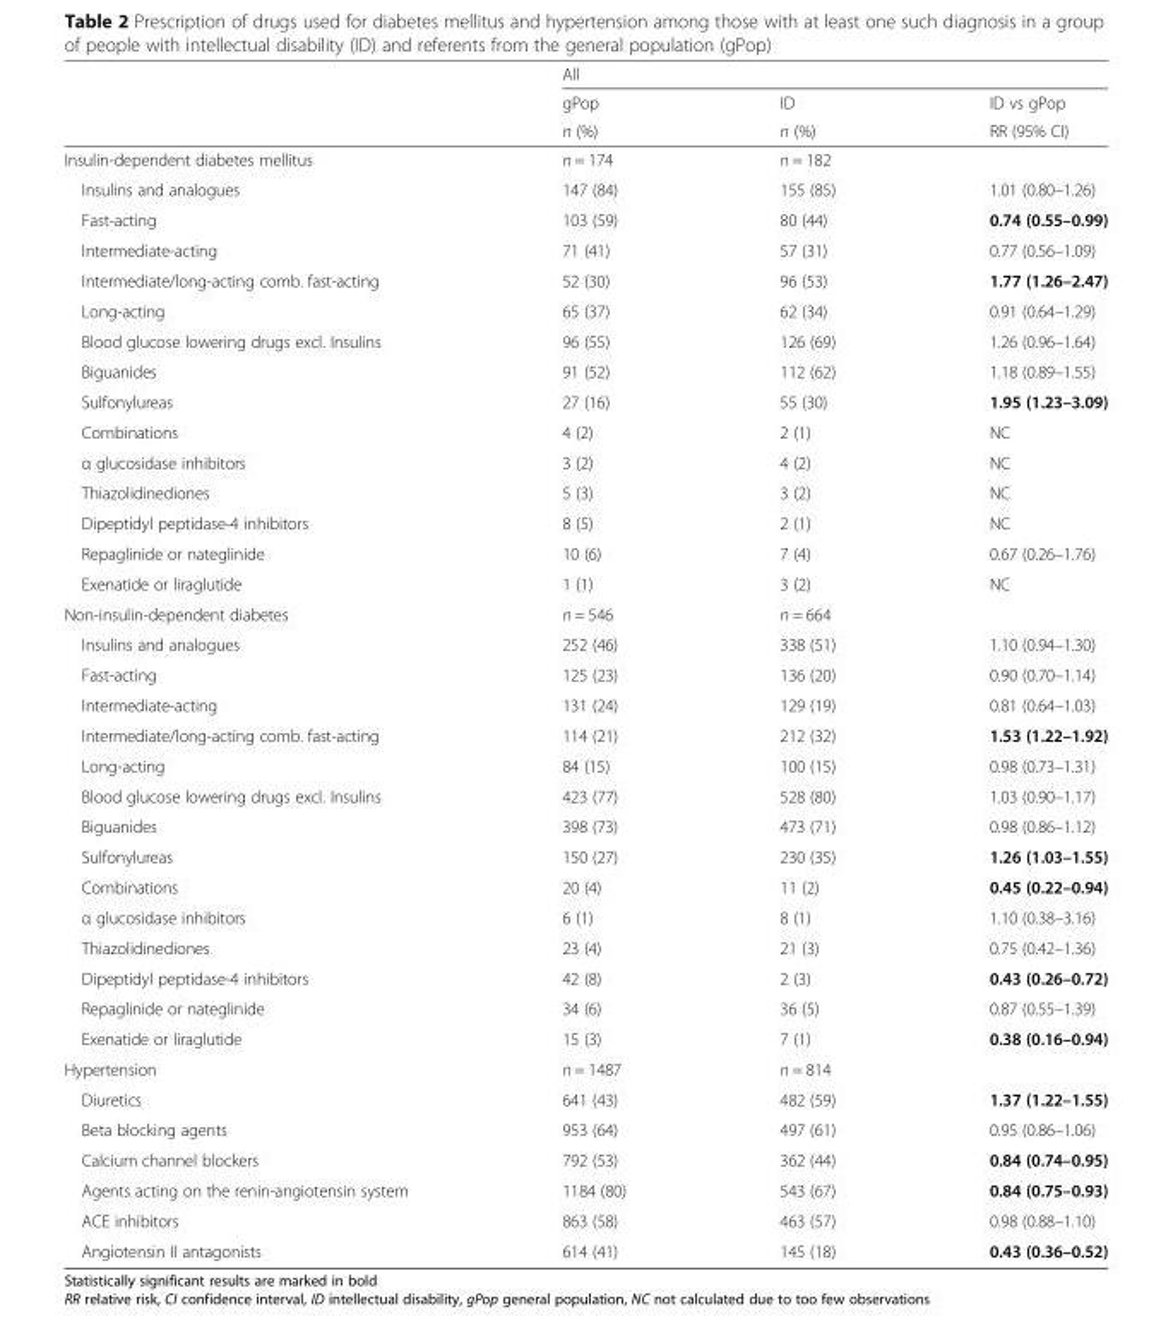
<table><thead><tr><td rowspan="3"></td><td colspan="3">All</td></tr><tr><td rowspan="2">gPop n (%)</td><td rowspan="2">ID n (%)</td><td rowspan="2">ID vs gPop RR (95% CI)</td></tr><tr></tr></thead><tbody><tr><td>Insulin-dependent diabetes mellitus</td><td>n = 174</td><td>n = 182</td><td></td></tr><tr><td>Insulins and analogues</td><td>147 (84)</td><td>155 (85)</td><td>1.01 (0.80–1.26)</td></tr><tr><td>Fast-acting</td><td>103 (59)</td><td>80 (44)</td><td>0.74 (0.55–0.99)</td></tr><tr><td>Intermediate-acting</td><td>71 (41)</td><td>57 (31)</td><td>0.77 (0.56–1.09)</td></tr><tr><td>Intermediate/long-acting comb. fast-acting</td><td>52 (30)</td><td>96 (53)</td><td>1.77 (1.26–2.47)</td></tr><tr><td>Long-acting</td><td>65 (37)</td><td>62 (34)</td><td>0.91 (0.64–1.29)</td></tr><tr><td>Blood glucose lowering drugs excl. Insulins</td><td>96 (55)</td><td>126 (69)</td><td>1.26 (0.96–1.64)</td></tr><tr><td>Biguanides</td><td>91 (52)</td><td>112 (62)</td><td>1.18 (0.89–1.55)</td></tr><tr><td>Sulfonylureas</td><td>27 (16)</td><td>55 (30)</td><td>1.95 (1.23–3.09)</td></tr><tr><td>Combinations</td><td>4 (2)</td><td>2 (1)</td><td>NC</td></tr><tr><td>α glucosidase inhibitors</td><td>3 (2)</td><td>4 (2)</td><td>NC</td></tr><tr><td>Thiazolidinediones</td><td>5 (3)</td><td>3 (2)</td><td>NC</td></tr><tr><td>Dipeptidyl peptidase-4 inhibitors</td><td>8 (5)</td><td>2 (1)</td><td>NC</td></tr><tr><td>Repaglinide or nateglinide</td><td>10 (6)</td><td>7 (4)</td><td>0.67 (0.26–1.76)</td></tr><tr><td>Exenatide or liraglutide</td><td>1 (1)</td><td>3 (2)</td><td>NC</td></tr><tr><td>Non-insulin-dependent diabetes</td><td>n = 546</td><td>n = 664</td><td></td></tr><tr><td>Insulins and analogues</td><td>252 (46)</td><td>338 (51)</td><td>1.10 (0.94–1.30)</td></tr><tr><td>Fast-acting</td><td>125 (23)</td><td>136 (20)</td><td>0.90 (0.70–1.14)</td></tr><tr><td>Intermediate-acting</td><td>131 (24)</td><td>129 (19)</td><td>0.81 (0.64–1.03)</td></tr><tr><td>Intermediate/long-acting comb. fast-acting</td><td>114 (21)</td><td>212 (32)</td><td>1.53 (1.22–1.92)</td></tr><tr><td>Long-acting</td><td>84 (15)</td><td>100 (15)</td><td>0.98 (0.73–1.31)</td></tr><tr><td>Blood glucose lowering drugs excl. Insulins</td><td>423 (77)</td><td>528 (80)</td><td>1.03 (0.90–1.17)</td></tr><tr><td>Biguanides</td><td>398 (73)</td><td>473 (71)</td><td>0.98 (0.86–1.12)</td></tr><tr><td>Sulfonylureas</td><td>150 (27)</td><td>230 (35)</td><td>1.26 (1.03–1.55)</td></tr><tr><td>Combinations</td><td>20 (4)</td><td>11 (2)</td><td>0.45 (0.22–0.94)</td></tr><tr><td>α glucosidase inhibitors</td><td>6 (1)</td><td>8 (1)</td><td>1.10 (0.38–3.16)</td></tr><tr><td>Thiazolidinediones</td><td>23 (4)</td><td>21 (3)</td><td>0.75 (0.42–1.36)</td></tr><tr><td>Dipeptidyl peptidase-4 inhibitors</td><td>42 (8)</td><td>2 (3)</td><td>0.43 (0.26–0.72)</td></tr><tr><td>Repaglinide or nateglinide</td><td>34 (6)</td><td>36 (5)</td><td>0.87 (0.55–1.39)</td></tr><tr><td>Exenatide or liraglutide</td><td>15 (3)</td><td>7 (1)</td><td>0.38 (0.16–0.94)</td></tr><tr><td>Hypertension</td><td>n = 1487</td><td>n = 814</td><td></td></tr><tr><td>Diuretics</td><td>641 (43)</td><td>482 (59)</td><td>1.37 (1.22–1.55)</td></tr><tr><td>Beta blocking agents</td><td>953 (64)</td><td>497 (61)</td><td>0.95 (0.86–1.06)</td></tr><tr><td>Calcium channel blockers</td><td>792 (53)</td><td>362 (44)</td><td>0.84 (0.74–0.95)</td></tr><tr><td>Agents acting on the renin-angiotensin system</td><td>1184 (80)</td><td>543 (67)</td><td>0.84 (0.75–0.93)</td></tr><tr><td>ACE inhibitors</td><td>863 (58)</td><td>463 (57)</td><td>0.98 (0.88–1.10)</td></tr><tr><td>Angiotensin II antagonists</td><td>614 (41)</td><td>145 (18)</td><td>0.43 (0.36–0.52)</td></tr></tbody></table>